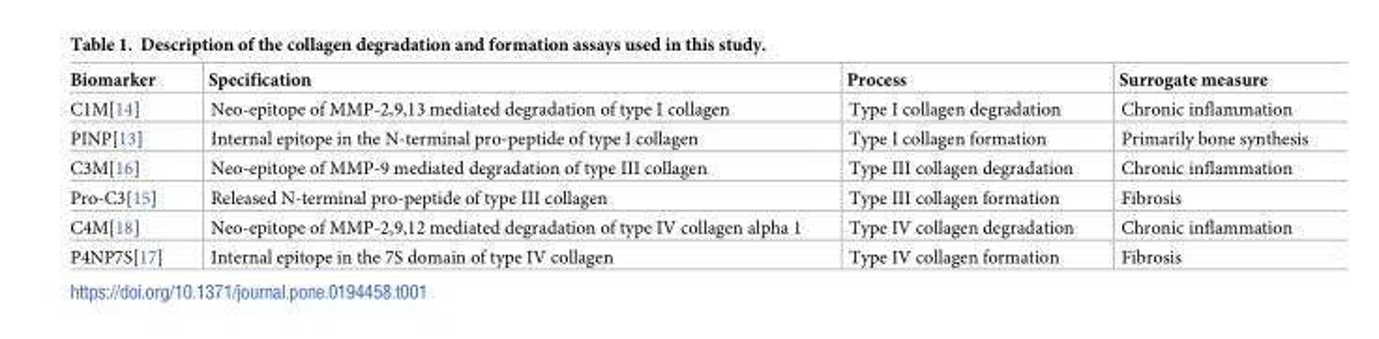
<table><thead><tr><td>Biomarker</td><td>Specification</td><td>Process</td><td>Surrogate measure</td></tr></thead><tbody><tr><td>C1M[14]</td><td>Neo-epitope of MMP-2,9,13 mediated degradation of type I collagen</td><td>Type I collagen degradation</td><td>Chronic inflammation</td></tr><tr><td>PINP[13]</td><td>Internal epitope in the N-terminal pro-peptide of type I collagen</td><td>Type I collagen formation</td><td>Primarily bone synthesis</td></tr><tr><td>C3M[16]</td><td>Neo-epitope of MMP-9 mediated degradation of type III collagen</td><td>Type III collagen degradation</td><td>Chronic inflammation</td></tr><tr><td>Pro-C3[15]</td><td>Released N-terminal pro-peptide of type III collagen</td><td>Type III collagen formation</td><td>Fibrosis</td></tr><tr><td>C4M[18]</td><td>Neo-epitope of MMP-2,9,12 mediated degradation of type IV collagen alpha 1</td><td>Type IV collagen degradation</td><td>Chronic inflammation</td></tr><tr><td>P4NP7S[17]</td><td>Internal epitope in the 7S domain of type IV collagen</td><td>Type IV collagen formation</td><td>Fibrosis</td></tr></tbody></table>